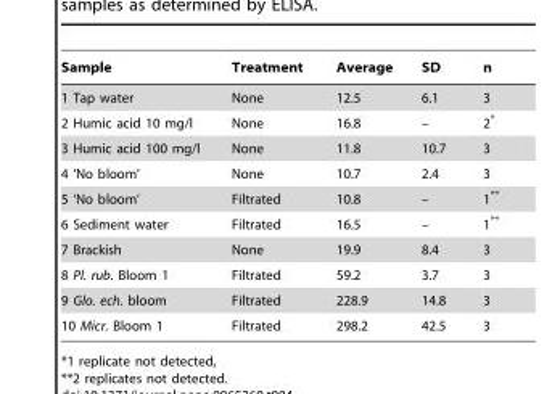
<table><thead><tr><td>Sample</td><td>Treatment</td><td>Average</td><td>SD</td><td>n</td></tr></thead><tbody><tr><td>1 Tap water</td><td>None</td><td>12.5</td><td>6.1</td><td>3</td></tr><tr><td>2 Humic acid 10 mg/l</td><td>None</td><td>16.8</td><td>–</td><td>2*</td></tr><tr><td>3 Humic acid 100 mg/l</td><td>None</td><td>11.8</td><td>10.7</td><td>3</td></tr><tr><td>4 ‘No bloom’</td><td>None</td><td>10.7</td><td>2.4</td><td>3</td></tr><tr><td>5 ‘No bloom’</td><td>Filtrated</td><td>10.8</td><td>–</td><td>1**</td></tr><tr><td>6 Sediment water</td><td>Filtrated</td><td>16.5</td><td>–</td><td>1**</td></tr><tr><td>7 Brackish</td><td>None</td><td>19.9</td><td>8.4</td><td>3</td></tr><tr><td>8 Pl. rub. Bloom 1</td><td>Filtrated</td><td>59.2</td><td>3.7</td><td>3</td></tr><tr><td>9 Glo. ech. bloom</td><td>Filtrated</td><td>228.9</td><td>14.8</td><td>3</td></tr><tr><td>10 Micr. Bloom 1</td><td>Filtrated</td><td>298.2</td><td>42.5</td><td>3</td></tr></tbody></table>